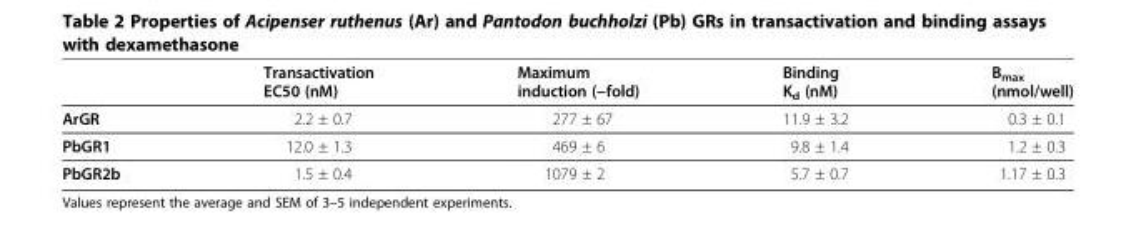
<table><thead><tr><td></td><td>Transactivation EC50 (nM)</td><td>Maximum induction (−fold)</td><td>Binding K<sub>d</sub> (nM)</td><td>B<sub>max</sub> (nmol/well)</td></tr></thead><tbody><tr><td>ArGR</td><td>2.2 ± 0.7</td><td>277 ± 67</td><td>11.9 ± 3.2</td><td>0.3 ± 0.1</td></tr><tr><td>PbGR1</td><td>12.0 ± 1.3</td><td>469 ± 6</td><td>9.8 ± 1.4</td><td>1.2 ± 0.3</td></tr><tr><td>PbGR2b</td><td>1.5 ± 0.4</td><td>1079 ± 2</td><td>5.7 ± 0.7</td><td>1.17 ± 0.3</td></tr></tbody></table>